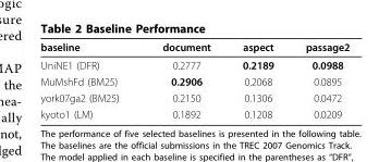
<table><thead><tr><td>baseline</td><td>document</td><td>aspect</td><td>passage2</td></tr></thead><tbody><tr><td>UniNE1 (DFR)</td><td>0.2777</td><td>0.2189</td><td>0.0988</td></tr><tr><td>MuMshFd (BM25)</td><td>0.2906</td><td>0.2068</td><td>0.0895</td></tr><tr><td>york07ga2 (BM25)</td><td>0.2150</td><td>0.1306</td><td>0.0472</td></tr><tr><td>kyoto1 (LM)</td><td>0.1892</td><td>0.1208</td><td>0.0209</td></tr></tbody></table>